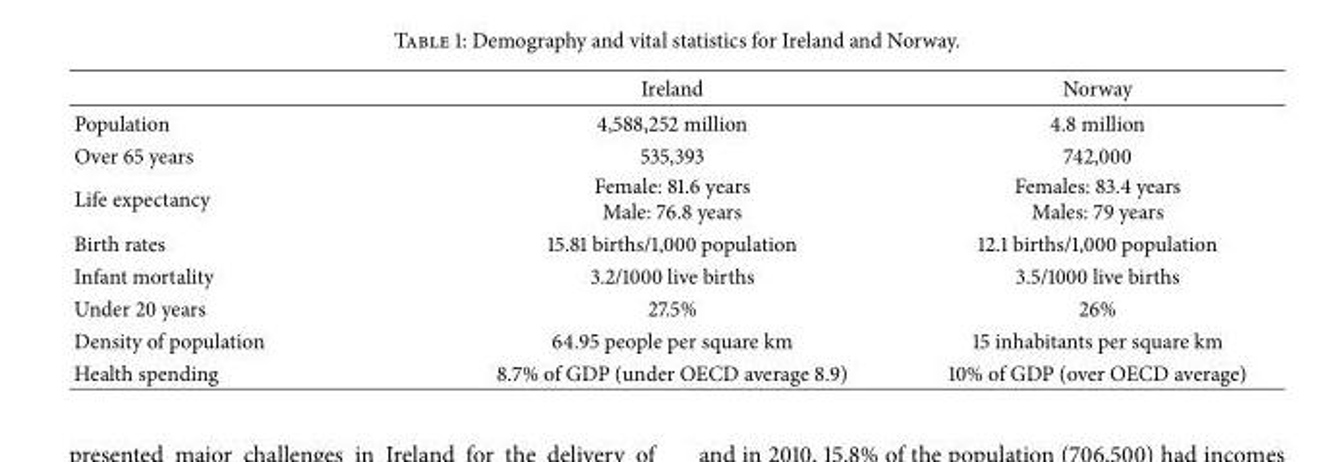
<table><thead><tr><td></td><td>Ireland</td><td>Norway</td></tr></thead><tbody><tr><td>Population</td><td>4,588,252 million</td><td>4.8 million</td></tr><tr><td>Over 65 years</td><td>535,393</td><td>742,000</td></tr><tr><td>Life expectancy</td><td>Female: 81.6 years Male: 76.8 years</td><td>Females: 83.4 years Males: 79 years</td></tr><tr><td>Birth rates</td><td>15.81 births/1,000 population</td><td>12.1 births/1,000 population</td></tr><tr><td>Infant mortality</td><td>3.2/1000 live births</td><td>3.5/1000 live births</td></tr><tr><td>Under 20 years</td><td>27.5%</td><td>26%</td></tr><tr><td>Density of population</td><td>64.95 people per square km</td><td>15 inhabitants per square km</td></tr><tr><td>Health spending</td><td>8.7% of GDP (under OECD average 8.9)</td><td>10% of GDP (over OECD average)</td></tr></tbody></table>